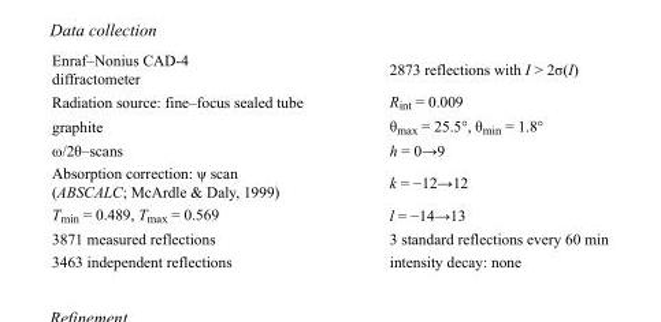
<table><tbody><tr><td>Enraf–Nonius CAD-4 diffractometer</td><td>2873 reflections with I &gt; 2σ(I)</td></tr><tr><td>Radiation source: fine–focus sealed tube</td><td>R<sub>int</sub> = 0.009</td></tr><tr><td>graphite</td><td>θ<sub>max</sub> = 25.5°, θ<sub>min</sub> = 1.8°</td></tr><tr><td>ω/2θ–scans</td><td>h = 0→9</td></tr><tr><td>Absorption correction: ψ scan (ABSCALC; McArdle &amp; Daly, 1999)</td><td>k = −12→12</td></tr><tr><td>T<sub>min</sub> = 0.489, T<sub>max</sub> = 0.569</td><td>l = −14→13</td></tr><tr><td>3871 measured reflections</td><td>3 standard reflections every 60 min</td></tr><tr><td>3463 independent reflections</td><td>intensity decay: none</td></tr></tbody></table>